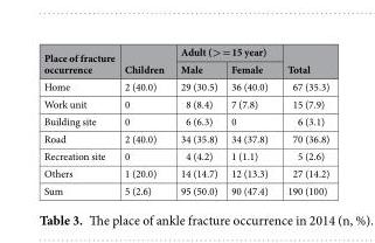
<table><thead><tr><td rowspan="2">Place of fracture occurrence</td><td rowspan="2">Children</td><td colspan="2">Adult (&gt; = 15 year)</td><td rowspan="2">Total</td></tr><tr><td>Male</td><td>Female</td></tr></thead><tbody><tr><td>Home</td><td>2 (40.0)</td><td>29 (30.5)</td><td>36 (40.0)</td><td>67 (35.3)</td></tr><tr><td>Work unit</td><td>0</td><td>8 (8.4)</td><td>7 (7.8)</td><td>15 (7.9)</td></tr><tr><td>Building site</td><td>0</td><td>6 (6.3)</td><td>0</td><td>6 (3.1)</td></tr><tr><td>Road</td><td>2 (40.0)</td><td>34 (35.8)</td><td>34 (37.8)</td><td>70 (36.8)</td></tr><tr><td>Recreation site</td><td>0</td><td>4 (4.2)</td><td>1 (1.1)</td><td>5 (2.6)</td></tr><tr><td>Others</td><td>1 (20.0)</td><td>14 (14.7)</td><td>12 (13.3)</td><td>27 (14.2)</td></tr><tr><td>Sum</td><td>5 (2.6)</td><td>95 (50.0)</td><td>90 (47.4)</td><td>190 (100)</td></tr></tbody></table>